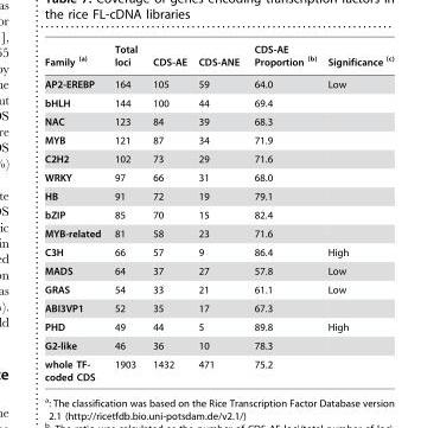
<table><thead><tr><td>Family (a)</td><td>Total loci</td><td>CDS-AE</td><td>CDS-ANE</td><td>CDS-AE Proportion (b)</td><td>Significance (c)</td></tr></thead><tbody><tr><td>AP2-EREBP</td><td>164</td><td>105</td><td>59</td><td>64.0</td><td>Low</td></tr><tr><td>bHLH</td><td>144</td><td>100</td><td>44</td><td>69.4</td><td></td></tr><tr><td>NAC</td><td>123</td><td>84</td><td>39</td><td>68.3</td><td></td></tr><tr><td>MYB</td><td>121</td><td>87</td><td>34</td><td>71.9</td><td></td></tr><tr><td>C2H2</td><td>102</td><td>73</td><td>29</td><td>71.6</td><td></td></tr><tr><td>WRKY</td><td>97</td><td>66</td><td>31</td><td>68.0</td><td></td></tr><tr><td>HB</td><td>91</td><td>72</td><td>19</td><td>79.1</td><td></td></tr><tr><td>bZIP</td><td>85</td><td>70</td><td>15</td><td>82.4</td><td></td></tr><tr><td>MYB-related</td><td>81</td><td>58</td><td>23</td><td>71.6</td><td></td></tr><tr><td>C3H</td><td>66</td><td>57</td><td>9</td><td>86.4</td><td>High</td></tr><tr><td>MADS</td><td>64</td><td>37</td><td>27</td><td>57.8</td><td>Low</td></tr><tr><td>GRAS</td><td>54</td><td>33</td><td>21</td><td>61.1</td><td>Low</td></tr><tr><td>ABI3VP1</td><td>52</td><td>35</td><td>17</td><td>67.3</td><td></td></tr><tr><td>PHD</td><td>49</td><td>44</td><td>5</td><td>89.8</td><td>High</td></tr><tr><td>G2-like</td><td>46</td><td>36</td><td>10</td><td>78.3</td><td></td></tr><tr><td>whole TF- coded CDS</td><td>1903</td><td>1432</td><td>471</td><td>75.2</td><td></td></tr></tbody></table>